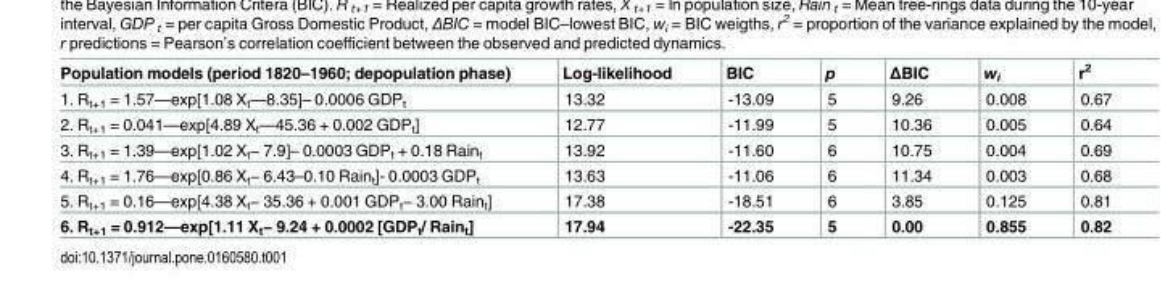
<table><thead><tr><td>Population models (period 1820–1960; depopulation phase)</td><td>Log-likelihood</td><td>BIC</td><td>p</td><td>ΔBIC</td><td>w<sub>i</sub></td><td>r<sup>2</sup></td></tr></thead><tbody><tr><td>1. R<sub>t+1</sub> = 1.57—exp[1.08 X<sub>t</sub>—8.35]– 0.0006 GDP<sub>t</sub></td><td>13.32</td><td>-13.09</td><td>5</td><td>9.26</td><td>0.008</td><td>0.67</td></tr><tr><td>2. R<sub>t+1</sub> = 0.041—exp[4.89 X<sub>t</sub>—45.36 + 0.002 GDP<sub>t</sub>]</td><td>12.77</td><td>-11.99</td><td>5</td><td>10.36</td><td>0.005</td><td>0.64</td></tr><tr><td>3. R<sub>t+1</sub> = 1.39—exp[1.02 X<sub>t</sub>− 7.9]– 0.0003 GDP<sub>t</sub> + 0.18 Rain<sub>t</sub></td><td>13.92</td><td>-11.60</td><td>6</td><td>10.75</td><td>0.004</td><td>0.69</td></tr><tr><td>4. R<sub>t+1</sub> = 1.76—exp[0.86 X<sub>t</sub>− 6.43–0.10 Rain<sub>t</sub>]- 0.0003 GDP<sub>t</sub></td><td>13.63</td><td>-11.06</td><td>6</td><td>11.34</td><td>0.003</td><td>0.68</td></tr><tr><td>5. R<sub>t+1</sub> = 0.16—exp[4.38 X<sub>t</sub>− 35.36 + 0.001 GDP<sub>t</sub>− 3.00 Rain<sub>t</sub>]</td><td>17.38</td><td>-18.51</td><td>6</td><td>3.85</td><td>0.125</td><td>0.81</td></tr><tr><td>6. R<sub>t+1</sub> = 0.912—exp[1.11 X<sub>t</sub>− 9.24 + 0.0002 [GDP<sub>t</sub>/ Rain<sub>t</sub>]</td><td>17.94</td><td>-22.35</td><td>5</td><td>0.00</td><td>0.855</td><td>0.82</td></tr></tbody></table>